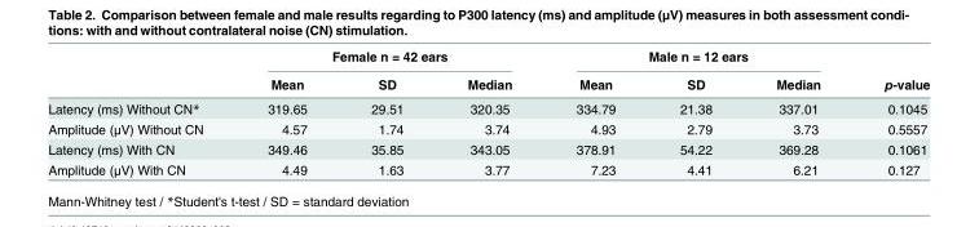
<table><thead><tr><td rowspan="2"></td><td colspan="3">Female n = 42 ears</td><td colspan="3">Male n = 12 ears</td><td rowspan="2">p-value</td></tr><tr><td>Mean</td><td>SD</td><td>Median</td><td>Mean</td><td>SD</td><td>Median</td></tr></thead><tbody><tr><td>Latency (ms) Without CN*</td><td>319.65</td><td>29.51</td><td>320.35</td><td>334.79</td><td>21.38</td><td>337.01</td><td>0.1045</td></tr><tr><td>Amplitude (μV) Without CN</td><td>4.57</td><td>1.74</td><td>3.74</td><td>4.93</td><td>2.79</td><td>3.73</td><td>0.5557</td></tr><tr><td>Latency (ms) With CN</td><td>349.46</td><td>35.85</td><td>343.05</td><td>378.91</td><td>54.22</td><td>369.28</td><td>0.1061</td></tr><tr><td>Amplitude (μV) With CN</td><td>4.49</td><td>1.63</td><td>3.77</td><td>7.23</td><td>4.41</td><td>6.21</td><td>0.127</td></tr></tbody></table>